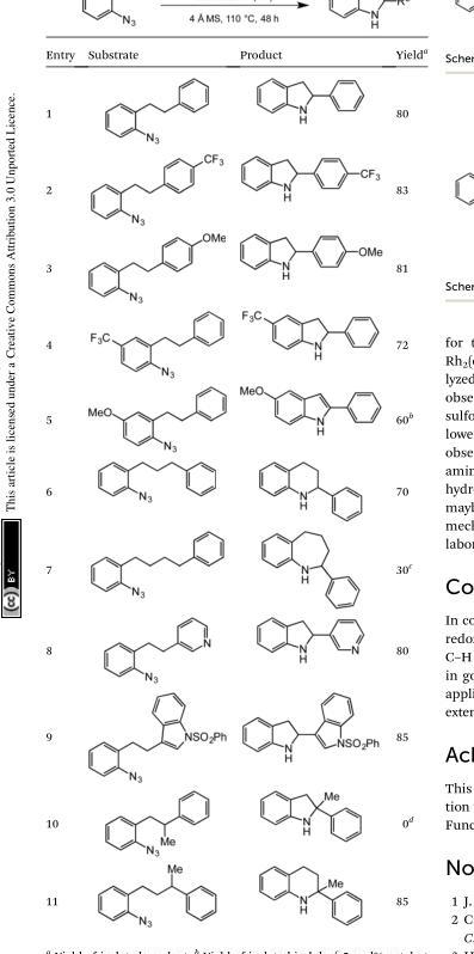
<table><thead><tr><td>Entry</td><td>Substrate</td><td>Product</td><td>Yield<sup>a</sup></td></tr></thead><tbody><tr><td>1</td><td></td><td></td><td>80</td></tr><tr><td>2</td><td></td><td></td><td>83</td></tr><tr><td>3</td><td></td><td></td><td>81</td></tr><tr><td>4</td><td></td><td></td><td>72</td></tr><tr><td>5</td><td></td><td></td><td>60<sup>b</sup></td></tr><tr><td>6</td><td></td><td></td><td>70</td></tr><tr><td>7</td><td></td><td></td><td>30<sup>c</sup></td></tr><tr><td>8</td><td></td><td></td><td>80</td></tr><tr><td>9</td><td></td><td></td><td>85</td></tr><tr><td>10</td><td></td><td></td><td>0<sup>d</sup></td></tr><tr><td>11</td><td></td><td></td><td>85</td></tr></tbody></table>